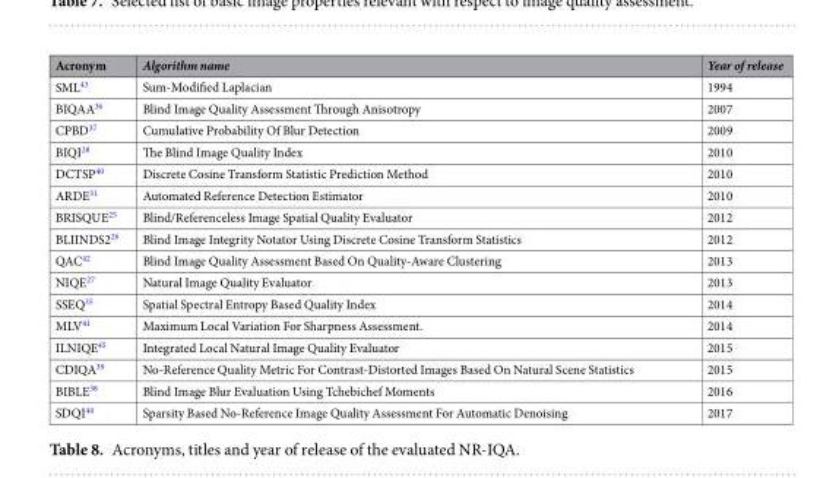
<table><thead><tr><td>Acronym</td><td>Algorithm name</td><td>Year of release</td></tr></thead><tbody><tr><td>SML<sup>43</sup></td><td>Sum-Modified Laplacian</td><td>1994</td></tr><tr><td>BIQAA<sup>36</sup></td><td>Blind Image Quality Assessment Through Anisotropy</td><td>2007</td></tr><tr><td>CPBD<sup>37</sup></td><td>Cumulative Probability Of Blur Detection</td><td>2009</td></tr><tr><td>BIQI<sup>28</sup></td><td>The Blind Image Quality Index</td><td>2010</td></tr><tr><td>DCTSP<sup>40</sup></td><td>Discrete Cosine Transform Statistic Prediction Method</td><td>2010</td></tr><tr><td>ARDE<sup>31</sup></td><td>Automated Reference Detection Estimator</td><td>2010</td></tr><tr><td>BRISQUE<sup>25</sup></td><td>Blind/Referenceless Image Spatial Quality Evaluator</td><td>2012</td></tr><tr><td>BLIINDS2<sup>26</sup></td><td>Blind Image Integrity Notator Using Discrete Cosine Transform Statistics</td><td>2012</td></tr><tr><td>QAC<sup>42</sup></td><td>Blind Image Quality Assessment Based On Quality-Aware Clustering</td><td>2013</td></tr><tr><td>NIQE<sup>27</sup></td><td>Natural Image Quality Evaluator</td><td>2013</td></tr><tr><td>SSEQ<sup>35</sup></td><td>Spatial Spectral Entropy Based Quality Index</td><td>2014</td></tr><tr><td>MLV<sup>41</sup></td><td>Maximum Local Variation For Sharpness Assessment.</td><td>2014</td></tr><tr><td>ILNIQE<sup>45</sup></td><td>Integrated Local Natural Image Quality Evaluator</td><td>2015</td></tr><tr><td>CDIQA<sup>39</sup></td><td>No-Reference Quality Metric For Contrast-Distorted Images Based On Natural Scene Statistics</td><td>2015</td></tr><tr><td>BIBLE<sup>38</sup></td><td>Blind Image Blur Evaluation Using Tchebichef Moments</td><td>2016</td></tr><tr><td>SDQI<sup>44</sup></td><td>Sparsity Based No-Reference Image Quality Assessment For Automatic Denoising</td><td>2017</td></tr></tbody></table>